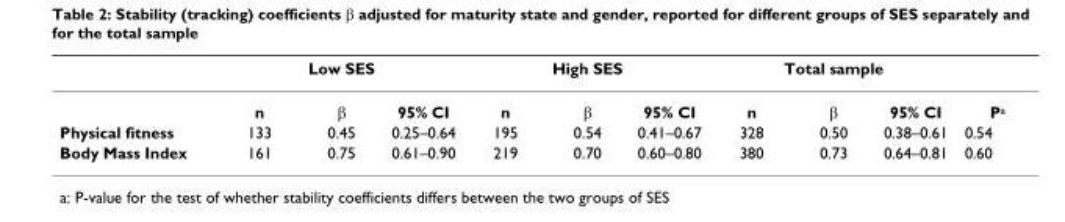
<table><thead><tr><td rowspan="2"></td><td colspan="3">Low SES</td><td colspan="3">High SES</td><td colspan="3">Total sample</td><td rowspan="2">Pa</td></tr><tr><td>n</td><td>β</td><td>95% CI</td><td>n</td><td>β</td><td>95% CI</td><td>n</td><td>β</td><td>95% CI</td></tr></thead><tbody><tr><td>Physical fitness</td><td>133</td><td>0.45</td><td>0.25–0.64</td><td>195</td><td>0.54</td><td>0.41–0.67</td><td>328</td><td>0.50</td><td>0.38–0.61</td><td>0.54</td></tr><tr><td>Body Mass Index</td><td>161</td><td>0.75</td><td>0.61–0.90</td><td>219</td><td>0.70</td><td>0.60–0.80</td><td>380</td><td>0.73</td><td>0.64–0.81</td><td>0.60</td></tr></tbody></table>